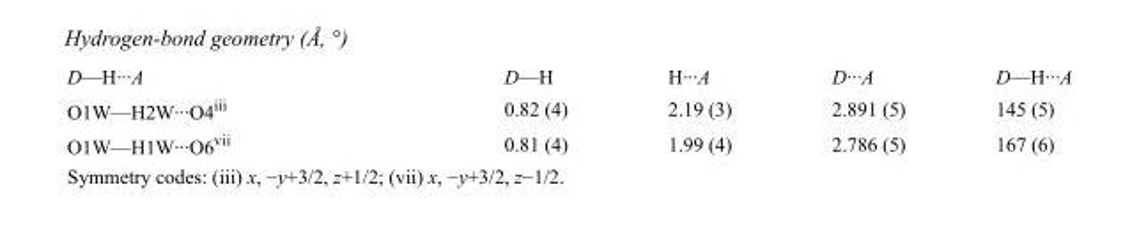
<table><tbody><tr><td>D—H···A</td><td>D—H</td><td>H···A</td><td>D···A</td><td>D—H···A</td></tr><tr><td>O1W—H2W···O4<sup>iii</sup></td><td>0.82 (4)</td><td>2.19 (3)</td><td>2.891 (5)</td><td>145 (5)</td></tr><tr><td>O1W—H1W···O6<sup>vii</sup></td><td>0.81 (4)</td><td>1.99 (4)</td><td>2.786 (5)</td><td>167 (6)</td></tr></tbody></table>